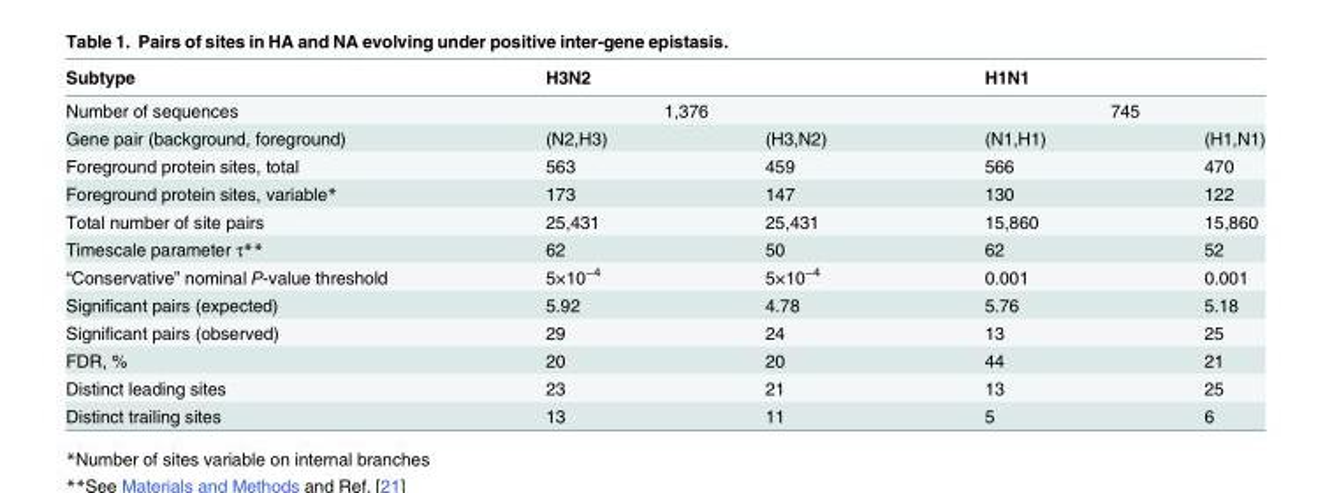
<table><thead><tr><td rowspan="3">Subtype Number of sequences Gene pair (background, foreground)</td><td rowspan="2" colspan="2">H3N2 1,376</td><td rowspan="2" colspan="2">H1N1 745</td></tr><tr></tr><tr><td>(N2,H3)</td><td>(H3,N2)</td><td>(N1,H1)</td><td>(H1,N1)</td></tr></thead><tbody><tr><td>Foreground protein sites, total</td><td>563</td><td>459</td><td>566</td><td>470</td></tr><tr><td>Foreground protein sites, variable*</td><td>173</td><td>147</td><td>130</td><td>122</td></tr><tr><td>Total number of site pairs</td><td>25,431</td><td>25,431</td><td>15,860</td><td>15,860</td></tr><tr><td>Timescale parameter τ**</td><td>62</td><td>50</td><td>62</td><td>52</td></tr><tr><td>“Conservative” nominal P-value threshold</td><td>5×10<sup>−4</sup></td><td>5×10<sup>−4</sup></td><td>0.001</td><td>0.001</td></tr><tr><td>Significant pairs (expected)</td><td>5.92</td><td>4.78</td><td>5.76</td><td>5.18</td></tr><tr><td>Significant pairs (observed)</td><td>29</td><td>24</td><td>13</td><td>25</td></tr><tr><td>FDR, %</td><td>20</td><td>20</td><td>44</td><td>21</td></tr><tr><td>Distinct leading sites</td><td>23</td><td>21</td><td>13</td><td>25</td></tr><tr><td>Distinct trailing sites</td><td>13</td><td>11</td><td>5</td><td>6</td></tr></tbody></table>